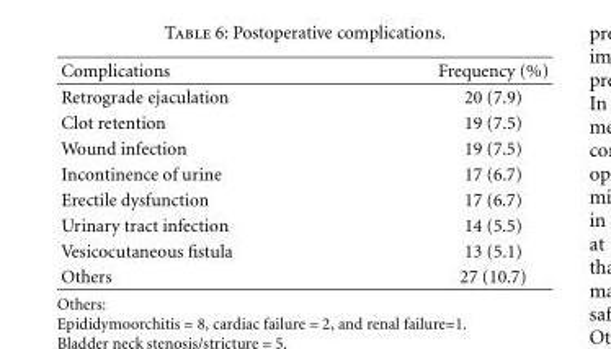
<table><thead><tr><td>Complications</td><td>Frequency (%)</td></tr></thead><tbody><tr><td>Retrograde ejaculation</td><td>20 (7.9)</td></tr><tr><td>Clot retention</td><td>19 (7.5)</td></tr><tr><td>Wound infection</td><td>19 (7.5)</td></tr><tr><td>Incontinence of urine</td><td>17 (6.7)</td></tr><tr><td>Erectile dysfunction</td><td>17 (6.7)</td></tr><tr><td>Urinary tract infection</td><td>14 (5.5)</td></tr><tr><td>Vesicocutaneous fistula</td><td>13 (5.1)</td></tr><tr><td>Others</td><td>27 (10.7)</td></tr></tbody></table>